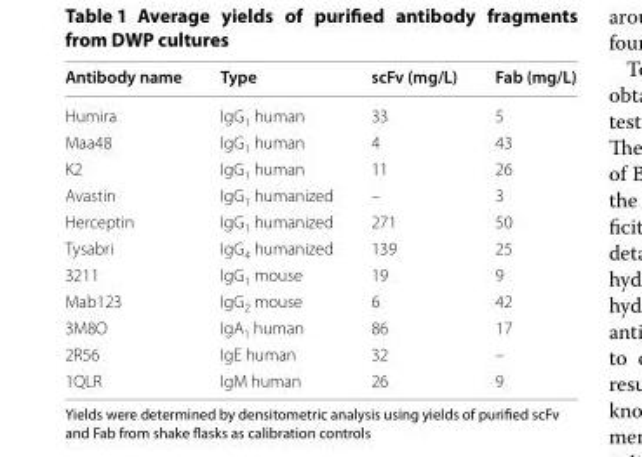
<table><thead><tr><td>Antibody name</td><td>Type</td><td>scFv (mg/L)</td><td>Fab (mg/L)</td></tr></thead><tbody><tr><td>Humira</td><td>IgG<sub>1</sub> human</td><td>33</td><td>5</td></tr><tr><td>Maa48</td><td>IgG<sub>1</sub> human</td><td>4</td><td>43</td></tr><tr><td>K2</td><td>IgG<sub>1</sub> human</td><td>11</td><td>26</td></tr><tr><td>Avastin</td><td>IgG<sub>1</sub> humanized</td><td>–</td><td>3</td></tr><tr><td>Herceptin</td><td>IgG<sub>1</sub> humanized</td><td>271</td><td>50</td></tr><tr><td>Tysabri</td><td>IgG<sub>4</sub> humanized</td><td>139</td><td>25</td></tr><tr><td>3211</td><td>IgG<sub>1</sub> mouse</td><td>19</td><td>9</td></tr><tr><td>Mab123</td><td>IgG<sub>2</sub> mouse</td><td>6</td><td>42</td></tr><tr><td>3M8O</td><td>IgA<sub>1</sub> human</td><td>86</td><td>17</td></tr><tr><td>2R56</td><td>IgE human</td><td>32</td><td>–</td></tr><tr><td>1QLR</td><td>IgM human</td><td>26</td><td>9</td></tr></tbody></table>